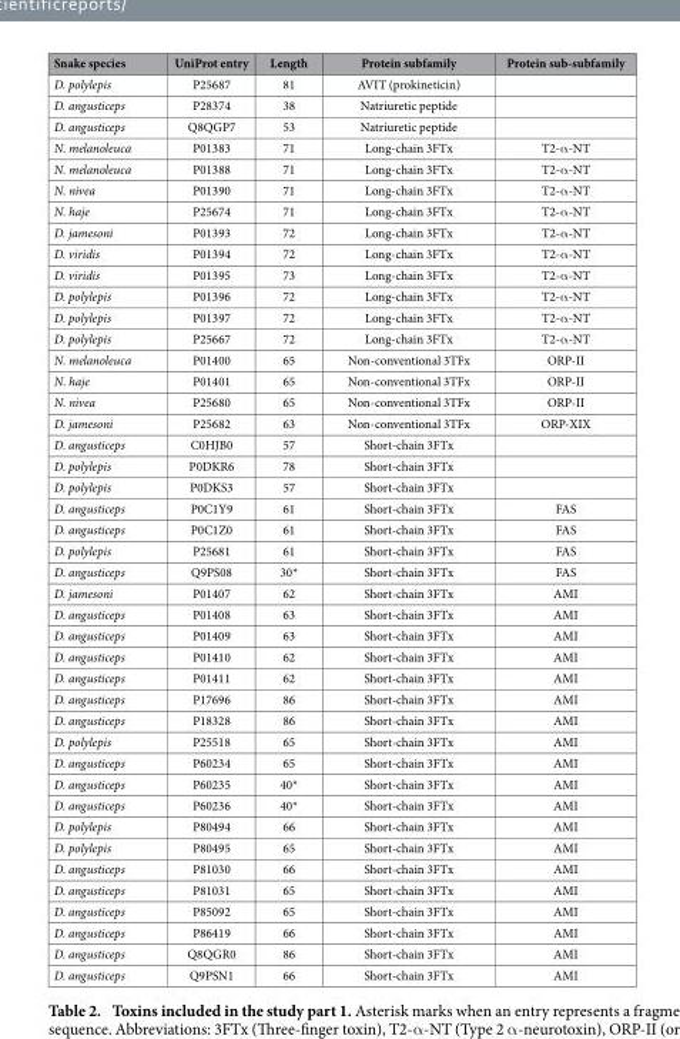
<table><thead><tr><td>Snake species</td><td>UniProt entry</td><td>Length</td><td>Protein subfamily</td><td>Protein sub-subfamily</td></tr></thead><tbody><tr><td>D. polylepis</td><td>P25687</td><td>81</td><td>AVIT (prokineticin)</td><td></td></tr><tr><td>D. angusticeps</td><td>P28374</td><td>38</td><td>Natriuretic peptide</td><td></td></tr><tr><td>D. angusticeps</td><td>Q8QGP7</td><td>53</td><td>Natriuretic peptide</td><td></td></tr><tr><td>N. melanoleuca</td><td>P01383</td><td>71</td><td>Long-chain 3FTx</td><td>T2-α -NT</td></tr><tr><td>N. melanoleuca</td><td>P01388</td><td>71</td><td>Long-chain 3FTx</td><td>T2-α -NT</td></tr><tr><td>N. nivea</td><td>P01390</td><td>71</td><td>Long-chain 3FTx</td><td>T2-α -NT</td></tr><tr><td>N. haje</td><td>P25674</td><td>71</td><td>Long-chain 3FTx</td><td>T2-α -NT</td></tr><tr><td>D. jamesoni</td><td>P01393</td><td>72</td><td>Long-chain 3FTx</td><td>T2-α -NT</td></tr><tr><td>D. viridis</td><td>P01394</td><td>72</td><td>Long-chain 3FTx</td><td>T2-α -NT</td></tr><tr><td>D. viridis</td><td>P01395</td><td>73</td><td>Long-chain 3FTx</td><td>T2-α -NT</td></tr><tr><td>D. polylepis</td><td>P01396</td><td>72</td><td>Long-chain 3FTx</td><td>T2-α -NT</td></tr><tr><td>D. polylepis</td><td>P01397</td><td>72</td><td>Long-chain 3FTx</td><td>T2-α -NT</td></tr><tr><td>D. polylepis</td><td>P25667</td><td>72</td><td>Long-chain 3FTx</td><td>T2-α -NT</td></tr><tr><td>N. melanoleuca</td><td>P01400</td><td>65</td><td>Non-conventional 3TFx</td><td>ORP-II</td></tr><tr><td>N. haje</td><td>P01401</td><td>65</td><td>Non-conventional 3TFx</td><td>ORP-II</td></tr><tr><td>N. nivea</td><td>P25680</td><td>65</td><td>Non-conventional 3TFx</td><td>ORP-II</td></tr><tr><td>D. jamesoni</td><td>P25682</td><td>63</td><td>Non-conventional 3TFx</td><td>ORP-XIX</td></tr><tr><td>D. angusticeps</td><td>C0HJB0</td><td>57</td><td>Short-chain 3FTx</td><td></td></tr><tr><td>D. polylepis</td><td>P0DKR6</td><td>78</td><td>Short-chain 3FTx</td><td></td></tr><tr><td>D. polylepis</td><td>P0DKS3</td><td>57</td><td>Short-chain 3FTx</td><td></td></tr><tr><td>D. angusticeps</td><td>P0C1Y9</td><td>61</td><td>Short-chain 3FTx</td><td>FAS</td></tr><tr><td>D. angusticeps</td><td>P0C1Z0</td><td>61</td><td>Short-chain 3FTx</td><td>FAS</td></tr><tr><td>D. polylepis</td><td>P25681</td><td>61</td><td>Short-chain 3FTx</td><td>FAS</td></tr><tr><td>D. angusticeps</td><td>Q9PS08</td><td>30*</td><td>Short-chain 3FTx</td><td>FAS</td></tr><tr><td>D. jamesoni</td><td>P01407</td><td>62</td><td>Short-chain 3FTx</td><td>AMI</td></tr><tr><td>D. angusticeps</td><td>P01408</td><td>63</td><td>Short-chain 3FTx</td><td>AMI</td></tr><tr><td>D. angusticeps</td><td>P01409</td><td>63</td><td>Short-chain 3FTx</td><td>AMI</td></tr><tr><td>D. angusticeps</td><td>P01410</td><td>62</td><td>Short-chain 3FTx</td><td>AMI</td></tr><tr><td>D. angusticeps</td><td>P01411</td><td>62</td><td>Short-chain 3FTx</td><td>AMI</td></tr><tr><td>D. angusticeps</td><td>P17696</td><td>86</td><td>Short-chain 3FTx</td><td>AMI</td></tr><tr><td>D. angusticeps</td><td>P18328</td><td>86</td><td>Short-chain 3FTx</td><td>AMI</td></tr><tr><td>D. polylepis</td><td>P25518</td><td>65</td><td>Short-chain 3FTx</td><td>AMI</td></tr><tr><td>D. angusticeps</td><td>P60234</td><td>65</td><td>Short-chain 3FTx</td><td>AMI</td></tr><tr><td>D. angusticeps</td><td>P60235</td><td>40*</td><td>Short-chain 3FTx</td><td>AMI</td></tr><tr><td>D. angusticeps</td><td>P60236</td><td>40*</td><td>Short-chain 3FTx</td><td>AMI</td></tr><tr><td>D. polylepis</td><td>P80494</td><td>66</td><td>Short-chain 3FTx</td><td>AMI</td></tr><tr><td>D. polylepis</td><td>P80495</td><td>65</td><td>Short-chain 3FTx</td><td>AMI</td></tr><tr><td>D. angusticeps</td><td>P81030</td><td>66</td><td>Short-chain 3FTx</td><td>AMI</td></tr><tr><td>D. angusticeps</td><td>P81031</td><td>65</td><td>Short-chain 3FTx</td><td>AMI</td></tr><tr><td>D. angusticeps</td><td>P85092</td><td>65</td><td>Short-chain 3FTx</td><td>AMI</td></tr><tr><td>D. angusticeps</td><td>P86419</td><td>66</td><td>Short-chain 3FTx</td><td>AMI</td></tr><tr><td>D. angusticeps</td><td>Q8QGR0</td><td>86</td><td>Short-chain 3FTx</td><td>AMI</td></tr><tr><td>D. angusticeps</td><td>Q9PSN1</td><td>66</td><td>Short-chain 3FTx</td><td>AMI</td></tr></tbody></table>